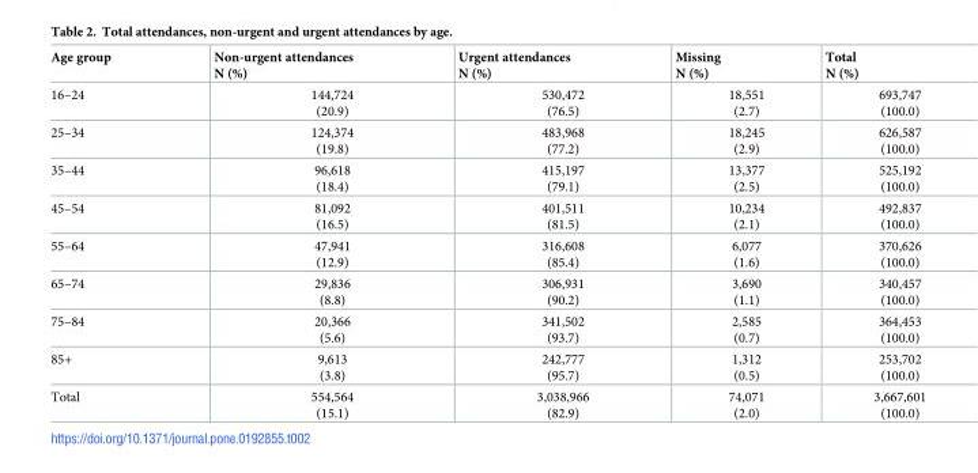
<table><thead><tr><td>Age group</td><td>Non-urgent attendances N (%)</td><td>Urgent attendances N (%)</td><td>Missing N (%)</td><td>Total N (%)</td></tr></thead><tbody><tr><td>16–24</td><td>144,724 (20.9)</td><td>530,472 (76.5)</td><td>18,551 (2.7)</td><td>693,747 (100.0)</td></tr><tr><td>25–34</td><td>124,374 (19.8)</td><td>483,968 (77.2)</td><td>18,245 (2.9)</td><td>626,587 (100.0)</td></tr><tr><td>35–44</td><td>96,618 (18.4)</td><td>415,197 (79.1)</td><td>13,377 (2.5)</td><td>525,192 (100.0)</td></tr><tr><td>45–54</td><td>81,092 (16.5)</td><td>401,511 (81.5)</td><td>10,234 (2.1)</td><td>492,837 (100.0)</td></tr><tr><td>55–64</td><td>47,941 (12.9)</td><td>316,608 (85.4)</td><td>6,077 (1.6)</td><td>370,626 (100.0)</td></tr><tr><td>65–74</td><td>29,836 (8.8)</td><td>306,931 (90.2)</td><td>3,690 (1.1)</td><td>340,457 (100.0)</td></tr><tr><td>75–84</td><td>20,366 (5.6)</td><td>341,502 (93.7)</td><td>2,585 (0.7)</td><td>364,453 (100.0)</td></tr><tr><td>85+</td><td>9,613 (3.8)</td><td>242,777 (95.7)</td><td>1,312 (0.5)</td><td>253,702 (100.0)</td></tr><tr><td>Total</td><td>554,564 (15.1)</td><td>3,038,966 (82.9)</td><td>74,071 (2.0)</td><td>3,667,601 (100.0)</td></tr></tbody></table>